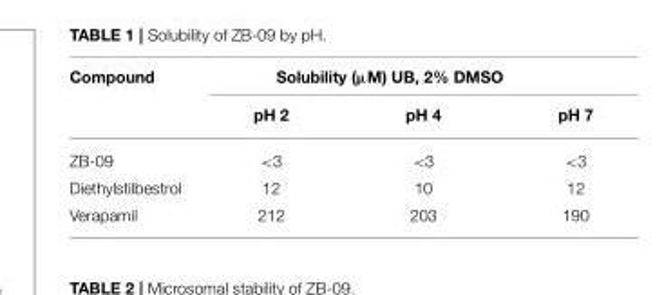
<table><thead><tr><td rowspan="2">Compound</td><td colspan="3">Solubility (µM) UB, 2% DMSO</td></tr><tr><td>pH 2</td><td>pH 4</td><td>pH 7</td></tr></thead><tbody><tr><td>ZB-09</td><td>&lt;3</td><td>&lt;3</td><td>&lt;3</td></tr><tr><td>Diethylstilbestrol</td><td>12</td><td>10</td><td>12</td></tr><tr><td>Verapamil</td><td>212</td><td>203</td><td>190</td></tr></tbody></table>